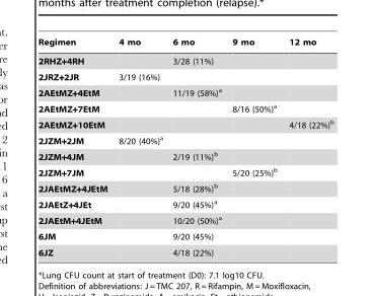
<table><thead><tr><td>Regimen</td><td>4 mo</td><td>6 mo</td><td>9 mo</td><td>12 mo</td></tr></thead><tbody><tr><td>2RHZ+4RH</td><td></td><td>3/28 (11%)</td><td></td><td></td></tr><tr><td>2JRZ+2JR</td><td>3/19 (16%)</td><td></td><td></td><td></td></tr><tr><td>2AEtMZ+4EtM</td><td></td><td>11/19 (58%)<sup>a</sup></td><td></td><td></td></tr><tr><td>2AEtMZ+7EtM</td><td></td><td></td><td>8/16 (50%)<sup>a</sup></td><td></td></tr><tr><td>2AEtMZ+10EtM</td><td></td><td></td><td></td><td>4/18 (22%)<sup>b</sup></td></tr><tr><td>2JZM+2JM</td><td>8/20 (40%)<sup>a</sup></td><td></td><td></td><td></td></tr><tr><td>2JZM+4JM</td><td></td><td>2/19 (11%)<sup>b</sup></td><td></td><td></td></tr><tr><td>2JZM+7JM</td><td></td><td></td><td>5/20 (25%)<sup>b</sup></td><td></td></tr><tr><td>2JAEtMZ+4JEtM</td><td></td><td>5/18 (28%)<sup>b</sup></td><td></td><td></td></tr><tr><td>2JAEtZ+4JEt</td><td></td><td>9/20 (45%)<sup>a</sup></td><td></td><td></td></tr><tr><td>2JAEtM+4JEtM</td><td></td><td>10/20 (50%)<sup>a</sup></td><td></td><td></td></tr><tr><td>6JM</td><td></td><td>9/20 (45%)</td><td></td><td></td></tr><tr><td>6JZ</td><td></td><td>4/18 (22%)</td><td></td><td></td></tr></tbody></table>